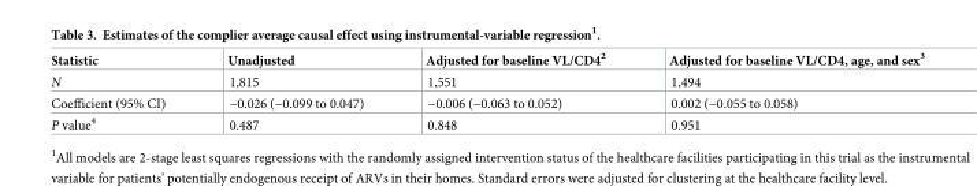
<table><thead><tr><td>Statistic</td><td>Unadjusted</td><td>Adjusted for baseline VL/CD4<sup>2</sup></td><td>Adjusted for baseline VL/CD4, age, and sex<sup>3</sup></td></tr></thead><tbody><tr><td>N</td><td>1,815</td><td>1,551</td><td>1,494</td></tr><tr><td>Coefficient (95% CI)</td><td>−0.026 (−0.099 to 0.047)</td><td>−0.006 (−0.063 to 0.052)</td><td>0.002 (−0.055 to 0.058)</td></tr><tr><td>P value<sup>4</sup></td><td>0.487</td><td>0.848</td><td>0.951</td></tr></tbody></table>